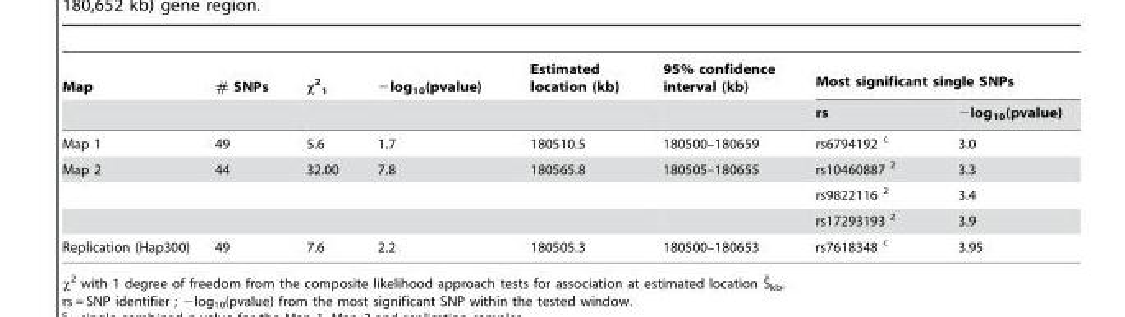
<table><thead><tr><td rowspan="2">Map</td><td rowspan="2"># SNPs</td><td rowspan="2">χ<sup>2</sup> <sub>1</sub></td><td rowspan="2">−log<sub>10</sub>(pvalue)</td><td rowspan="2">Estimated location (kb)</td><td rowspan="2">95% confidence interval (kb)</td><td colspan="2">Most significant single SNPs</td></tr><tr><td>rs</td><td>−log<sub>10</sub>(pvalue)</td></tr></thead><tbody><tr><td>Map 1</td><td>49</td><td>5.6</td><td>1.7</td><td>180510.5</td><td>180500–180659</td><td>rs6794192 c</td><td>3.0</td></tr><tr><td rowspan="3">Map 2</td><td>44</td><td>32.00</td><td>7.8</td><td>180565.8</td><td>180505–180655</td><td>rs10460887 <sup>2</sup></td><td>3.3</td></tr><tr><td></td><td></td><td></td><td></td><td></td><td>rs9822116 <sup>2</sup></td><td>3.4</td></tr><tr><td></td><td></td><td></td><td></td><td></td><td>rs17293193 <sup>2</sup></td><td>3.9</td></tr><tr><td>Replication (Hap300)</td><td>49</td><td>7.6</td><td>2.2</td><td>180505.3</td><td>180500–180653</td><td>rs7618348 c</td><td>3.95</td></tr></tbody></table>